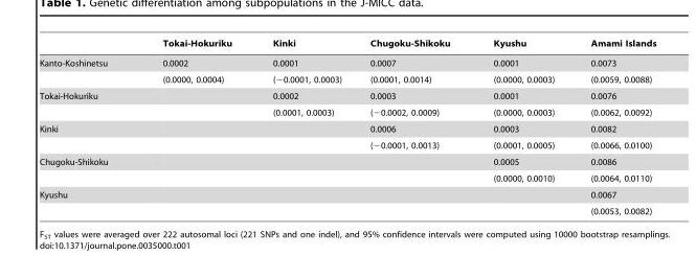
<table><thead><tr><td></td><td>Tokai-Hokuriku</td><td>Kinki</td><td>Chugoku-Shikoku</td><td>Kyushu</td><td>Amami Islands</td></tr></thead><tbody><tr><td rowspan="2">Kanto-Koshinetsu</td><td>0.0002</td><td>0.0001</td><td>0.0007</td><td>0.0001</td><td>0.0073</td></tr><tr><td>(0.0000, 0.0004)</td><td>(−0.0001, 0.0003)</td><td>(0.0001, 0.0014)</td><td>(0.0000, 0.0003)</td><td>(0.0059, 0.0088)</td></tr><tr><td rowspan="2">Tokai-Hokuriku</td><td></td><td>0.0002</td><td>0.0003</td><td>0.0001</td><td>0.0076</td></tr><tr><td></td><td>(0.0001, 0.0003)</td><td>(−0.0002, 0.0009)</td><td>(0.0000, 0.0003)</td><td>(0.0062, 0.0092)</td></tr><tr><td rowspan="2">Kinki</td><td></td><td></td><td>0.0006</td><td>0.0003</td><td>0.0082</td></tr><tr><td></td><td></td><td>(−0.0001, 0.0013)</td><td>(0.0001, 0.0005)</td><td>(0.0066, 0.0100)</td></tr><tr><td rowspan="2">Chugoku-Shikoku</td><td></td><td></td><td></td><td>0.0005</td><td>0.0086</td></tr><tr><td></td><td></td><td></td><td>(0.0000, 0.0010)</td><td>(0.0064, 0.0110)</td></tr><tr><td rowspan="2">Kyushu</td><td></td><td></td><td></td><td></td><td>0.0067</td></tr><tr><td></td><td></td><td></td><td></td><td>(0.0053, 0.0082)</td></tr></tbody></table>